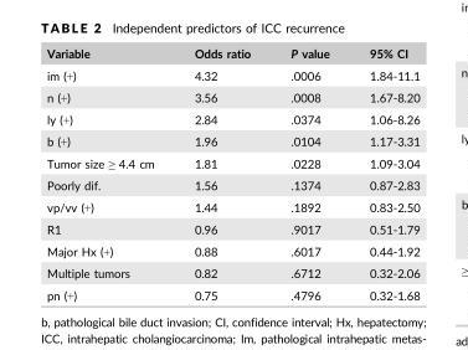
<table><thead><tr><td>Variable</td><td>Odds ratio</td><td>P value</td><td>95% CI</td></tr></thead><tbody><tr><td>im (+)</td><td>4.32</td><td>.0006</td><td>1.84-11.1</td></tr><tr><td>n (+)</td><td>3.56</td><td>.0008</td><td>1.67-8.20</td></tr><tr><td>ly (+)</td><td>2.84</td><td>.0374</td><td>1.06-8.26</td></tr><tr><td>b (+)</td><td>1.96</td><td>.0104</td><td>1.17-3.31</td></tr><tr><td>Tumor size ≥ 4.4 cm</td><td>1.81</td><td>.0228</td><td>1.09-3.04</td></tr><tr><td>Poorly dif.</td><td>1.56</td><td>.1374</td><td>0.87-2.83</td></tr><tr><td>vp/vv (+)</td><td>1.44</td><td>.1892</td><td>0.83-2.50</td></tr><tr><td>R1</td><td>0.96</td><td>.9017</td><td>0.51-1.79</td></tr><tr><td>Major Hx (+)</td><td>0.88</td><td>.6017</td><td>0.44-1.92</td></tr><tr><td>Multiple tumors</td><td>0.82</td><td>.6712</td><td>0.32-2.06</td></tr><tr><td>pn (+)</td><td>0.75</td><td>.4796</td><td>0.32-1.68</td></tr></tbody></table>